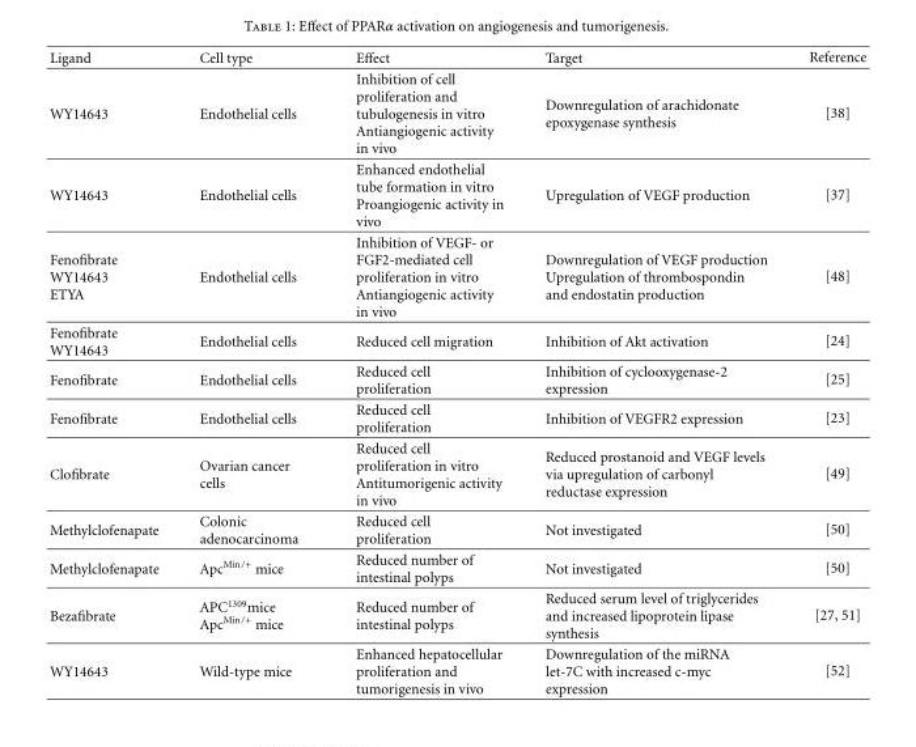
<table><thead><tr><td>Ligand</td><td>Cell type</td><td>Effect</td><td>Target</td><td>Reference</td></tr></thead><tbody><tr><td>WY14643</td><td>Endothelial cells</td><td>Inhibition of cell proliferation and tubulogenesis in vitro Antiangiogenic activity in vivo</td><td>Downregulation of arachidonate epoxygenase synthesis</td><td>[38]</td></tr><tr><td>WY14643</td><td>Endothelial cells</td><td>Enhanced endothelial tube formation in vitro Proangiogenic activity in vivo</td><td>Upregulation of VEGF production</td><td>[37]</td></tr><tr><td>Fenofibrate WY14643 ETYA</td><td>Endothelial cells</td><td>Inhibition of VEGF- or FGF2-mediated cell proliferation in vitro Antiangiogenic activity in vivo</td><td>Downregulation of VEGF production Upregulation of thrombospondin and endostatin production</td><td>[48]</td></tr><tr><td>Fenofibrate WY14643</td><td>Endothelial cells</td><td>Reduced cell migration</td><td>Inhibition of Akt activation</td><td>[24]</td></tr><tr><td>Fenofibrate</td><td>Endothelial cells</td><td>Reduced cell proliferation</td><td>Inhibition of cyclooxygenase-2 expression</td><td>[25]</td></tr><tr><td>Fenofibrate</td><td>Endothelial cells</td><td>Reduced cell proliferation</td><td>Inhibition of VEGFR2 expression</td><td>[23]</td></tr><tr><td>Clofibrate</td><td>Ovarian cancer cells</td><td>Reduced cell proliferation in vitro Antitumorigenic activity in vivo</td><td>Reduced prostanoid and VEGF levels via upregulation of carbonyl reductase expression</td><td>[49]</td></tr><tr><td>Methylclofenapate</td><td>Colonic adenocarcinoma</td><td>Reduced cell proliferation</td><td>Not investigated</td><td>[50]</td></tr><tr><td>Methylclofenapate</td><td>Apc<sup>Min/+</sup> mice</td><td>Reduced number of intestinal polyps</td><td>Not investigated</td><td>[50]</td></tr><tr><td>Bezafibrate</td><td>APC<sup>1309</sup>mice Apc<sup>Min/+</sup> mice</td><td>Reduced number of intestinal polyps</td><td>Reduced serum level of triglycerides and increased lipoprotein lipase synthesis</td><td>[27, 51]</td></tr><tr><td>WY14643</td><td>Wild-type mice</td><td>Enhanced hepatocellular proliferation and tumorigenesis in vivo</td><td>Downregulation of the miRNA let-7C with increased c-myc expression</td><td>[52]</td></tr></tbody></table>